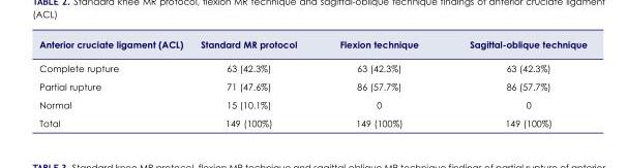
<table><thead><tr><td>Anterior cruciate ligament (ACL)</td><td>Standard MR protocol</td><td>Flexion technique</td><td>Sagittal-oblique technique</td></tr></thead><tbody><tr><td>Complete rupture</td><td>63 (42.3%)</td><td>63 (42.3%)</td><td>63 (42.3%)</td></tr><tr><td>Partial rupture</td><td>71 (47.6%)</td><td>86 (57.7%)</td><td>86 (57.7%)</td></tr><tr><td>Normal</td><td>15 (10.1%)</td><td>0</td><td>0</td></tr><tr><td>Total</td><td>149 (100%)</td><td>149 (100%)</td><td>149 (100%)</td></tr></tbody></table>